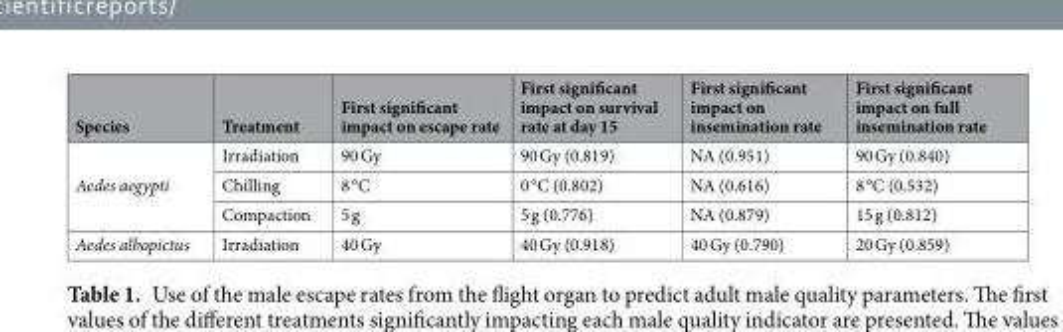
<table><thead><tr><td>Species</td><td>Treatment</td><td>First significant impact on escape rate</td><td>First significant impact on survival rate at day 15</td><td>First significant impact on insemination rate</td><td>First significant impact on full insemination rate</td></tr></thead><tbody><tr><td rowspan="3">Aedes aegypti</td><td>Irradiation</td><td>90 Gy</td><td>90 Gy (0.819)</td><td>NA (0.951)</td><td>90 Gy (0.840)</td></tr><tr><td>Chilling</td><td>8 °C</td><td>0 °C (0.802)</td><td>NA (0.616)</td><td>8 °C (0.532)</td></tr><tr><td>Compaction</td><td>5 g</td><td>5 g (0.776)</td><td>NA (0.879)</td><td>15 g (0.812)</td></tr><tr><td>Aedes albopictus</td><td>Irradiation</td><td>40 Gy</td><td>40 Gy (0.918)</td><td>40 Gy (0.790)</td><td>20 Gy (0.859)</td></tr></tbody></table>